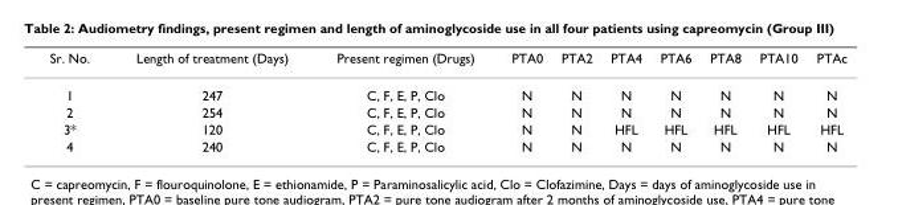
<table><thead><tr><td>Sr. No.</td><td>Length of treatment (Days)</td><td>Present regimen (Drugs)</td><td>PTA0</td><td>PTA2</td><td>PTA4</td><td>PTA6</td><td>PTA8</td><td>PTA10</td><td>PTAc</td></tr></thead><tbody><tr><td>1</td><td>247</td><td>C, F, E, P, Clo</td><td>N</td><td>N</td><td>N</td><td>N</td><td>N</td><td>N</td><td>N</td></tr><tr><td>2</td><td>254</td><td>C, F, E, P, Clo</td><td>N</td><td>N</td><td>N</td><td>N</td><td>N</td><td>N</td><td>N</td></tr><tr><td>3*</td><td>120</td><td>C, F, E, P, Clo</td><td>N</td><td>N</td><td>HFL</td><td>HFL</td><td>HFL</td><td>HFL</td><td>HFL</td></tr><tr><td>4</td><td>240</td><td>C, F, E, P, Clo</td><td>N</td><td>N</td><td>N</td><td>N</td><td>N</td><td>N</td><td>N</td></tr></tbody></table>